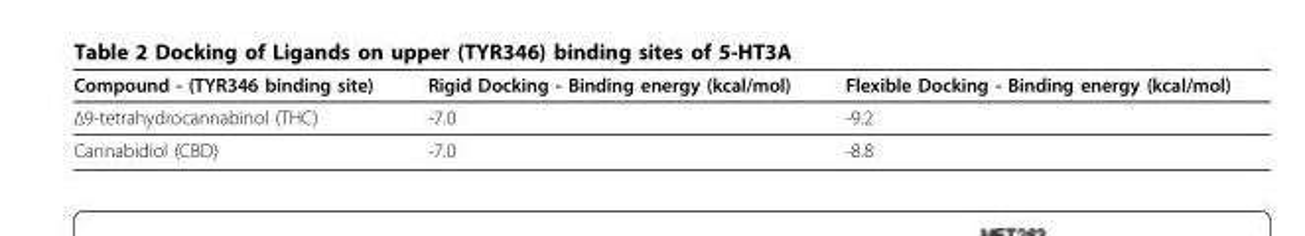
<table><thead><tr><td>Compound - (TYR346 binding site)</td><td>Rigid Docking - Binding energy (kcal/mol)</td><td>Flexible Docking - Binding energy (kcal/mol)</td></tr></thead><tbody><tr><td>Δ9-tetrahydrocannabinol (THC)</td><td>-7.0</td><td>-9.2</td></tr><tr><td>Cannabidiol (CBD)</td><td>-7.0</td><td>-8.8</td></tr></tbody></table>